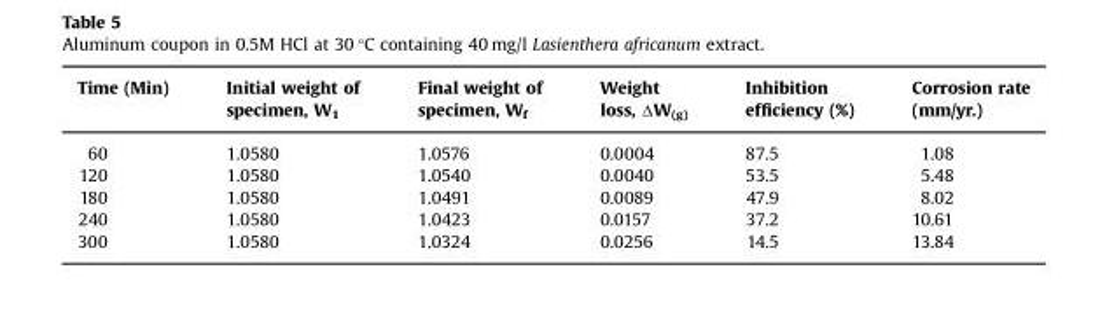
<table><thead><tr><td>Time (Min)</td><td>Initial weight of specimen, W<sub>1</sub></td><td>Final weight of specimen, W<sub>f</sub></td><td>Weight loss, ΔW(g)</td><td>Inhibition efficiency (%)</td><td>Corrosion rate (mm/yr.)</td></tr></thead><tbody><tr><td>60</td><td>1.0580</td><td>1.0576</td><td>0.0004</td><td>87.5</td><td>1.08</td></tr><tr><td>120</td><td>1.0580</td><td>1.0540</td><td>0.0040</td><td>53.5</td><td>5.48</td></tr><tr><td>180</td><td>1.0580</td><td>1.0491</td><td>0.0089</td><td>47.9</td><td>8.02</td></tr><tr><td>240</td><td>1.0580</td><td>1.0423</td><td>0.0157</td><td>37.2</td><td>10.61</td></tr><tr><td>300</td><td>1.0580</td><td>1.0324</td><td>0.0256</td><td>14.5</td><td>13.84</td></tr></tbody></table>